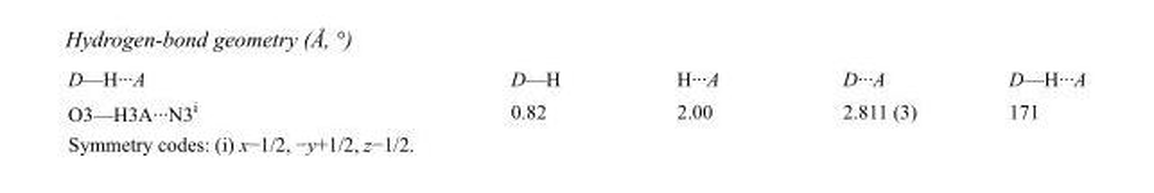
<table><tbody><tr><td>D—H···A</td><td>D—H</td><td>H···A</td><td>D···A</td><td>D—H···A</td></tr><tr><td>O3—H3A···N3<sup>i</sup></td><td>0.82</td><td>2.00</td><td>2.811 (3)</td><td>171</td></tr></tbody></table>